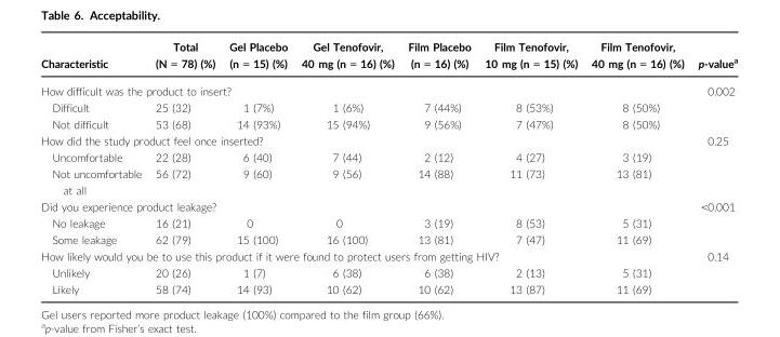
<table><thead><tr><td>Characteristic</td><td>Total (N = 78) (%)</td><td>Gel Placebo (n = 15) (%)</td><td>Gel Tenofovir, 40 mg (n = 16) (%)</td><td>Film Placebo (n = 16) (%)</td><td>Film Tenofovir, 10 mg (n = 15) (%)</td><td>Film Tenofovir, 40 mg (n = 16) (%)</td><td>p-value<sup>a</sup></td></tr></thead><tbody><tr><td colspan="7">How difficult was the product to insert?</td><td>0.002</td></tr><tr><td>Difficult</td><td>25 (32)</td><td>1 (7%)</td><td>1 (6%)</td><td>7 (44%)</td><td>8 (53%)</td><td>8 (50%)</td><td></td></tr><tr><td>Not difficult</td><td>53 (68)</td><td>14 (93%)</td><td>15 (94%)</td><td>9 (56%)</td><td>7 (47%)</td><td>8 (50%)</td><td></td></tr><tr><td colspan="7">How did the study product feel once inserted?</td><td>0.25</td></tr><tr><td>Uncomfortable</td><td>22 (28)</td><td>6 (40)</td><td>7 (44)</td><td>2 (12)</td><td>4 (27)</td><td>3 (19)</td><td></td></tr><tr><td>Not uncomfortable at all</td><td>56 (72)</td><td>9 (60)</td><td>9 (56)</td><td>14 (88)</td><td>11 (73)</td><td>13 (81)</td><td></td></tr><tr><td colspan="7">Did you experience product leakage?</td><td>&lt;0.001</td></tr><tr><td>No leakage</td><td>16 (21)</td><td>0</td><td>0</td><td>3 (19)</td><td>8 (53)</td><td>5 (31)</td><td></td></tr><tr><td>Some leakage</td><td>62 (79)</td><td>15 (100)</td><td>16 (100)</td><td>13 (81)</td><td>7 (47)</td><td>11 (69)</td><td></td></tr><tr><td colspan="7">How likely would you be to use this product if it were found to protect users from getting HIV?</td><td>0.14</td></tr><tr><td>Unlikely</td><td>20 (26)</td><td>1 (7)</td><td>6 (38)</td><td>6 (38)</td><td>2 (13)</td><td>5 (31)</td><td></td></tr><tr><td>Likely</td><td>58 (74)</td><td>14 (93)</td><td>10 (62)</td><td>10 (62)</td><td>13 (87)</td><td>11 (69)</td><td></td></tr></tbody></table>